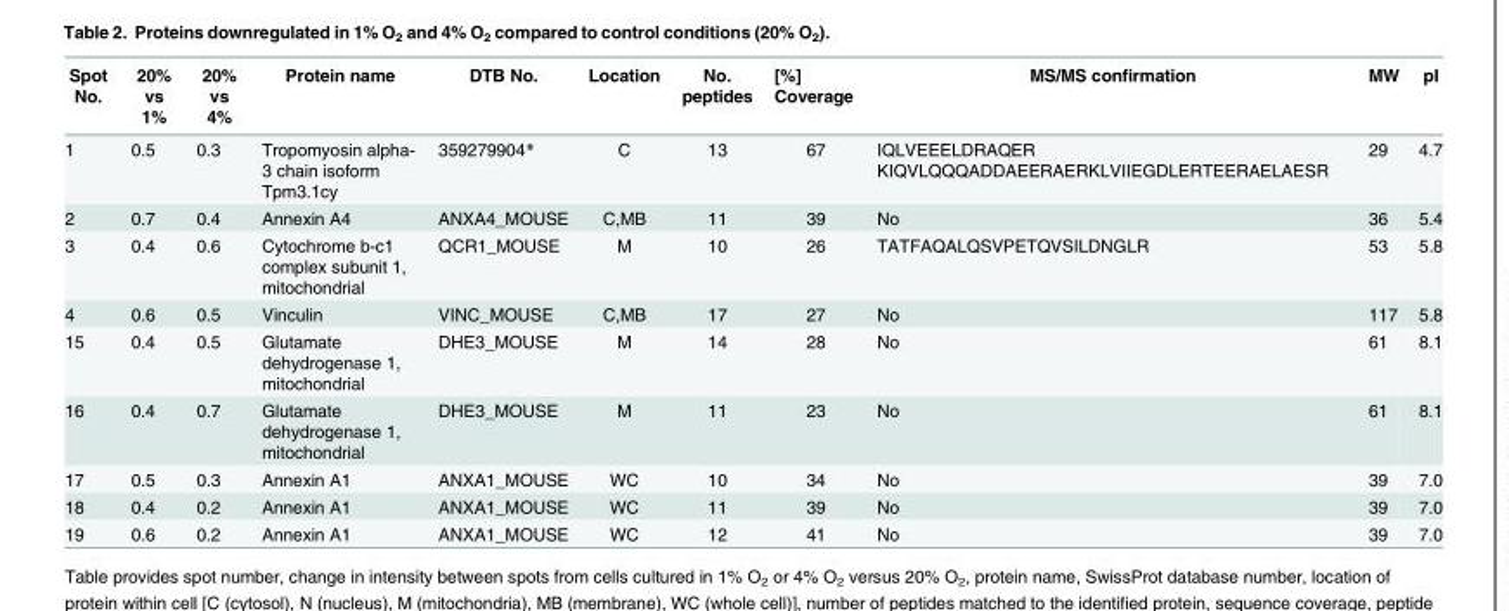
<table><thead><tr><td>Spot No.</td><td>20% vs 1%</td><td>20% vs 4%</td><td>Protein name</td><td>DTB No.</td><td>Location</td><td>No. peptides</td><td>[%] Coverage</td><td>MS/MS confirmation</td><td>MW</td><td>pI</td></tr></thead><tbody><tr><td>1</td><td>0.5</td><td>0.3</td><td>Tropomyosin alpha- 3 chain isoform Tpm3.1cy</td><td>359279904*</td><td>C</td><td>13</td><td>67</td><td>IQLVEEELDRAQER KIQVLQQQADDAEERAERKLVIIEGDLERTEERAELAESR</td><td>29</td><td>4.7</td></tr><tr><td>2</td><td>0.7</td><td>0.4</td><td>Annexin A4</td><td>ANXA4_MOUSE</td><td>C,MB</td><td>11</td><td>39</td><td>No</td><td>36</td><td>5.4</td></tr><tr><td>3</td><td>0.4</td><td>0.6</td><td>Cytochrome b-c1 complex subunit 1, mitochondrial</td><td>QCR1_MOUSE</td><td>M</td><td>10</td><td>26</td><td>TATFAQALQSVPETQVSILDNGLR</td><td>53</td><td>5.8</td></tr><tr><td>4</td><td>0.6</td><td>0.5</td><td>Vinculin</td><td>VINC_MOUSE</td><td>C,MB</td><td>17</td><td>27</td><td>No</td><td>117</td><td>5.8</td></tr><tr><td>15</td><td>0.4</td><td>0.5</td><td>Glutamate dehydrogenase 1, mitochondrial</td><td>DHE3_MOUSE</td><td>M</td><td>14</td><td>28</td><td>No</td><td>61</td><td>8.1</td></tr><tr><td>16</td><td>0.4</td><td>0.7</td><td>Glutamate dehydrogenase 1, mitochondrial</td><td>DHE3_MOUSE</td><td>M</td><td>11</td><td>23</td><td>No</td><td>61</td><td>8.1</td></tr><tr><td>17</td><td>0.5</td><td>0.3</td><td>Annexin A1</td><td>ANXA1_MOUSE</td><td>WC</td><td>10</td><td>34</td><td>No</td><td>39</td><td>7.0</td></tr><tr><td>18</td><td>0.4</td><td>0.2</td><td>Annexin A1</td><td>ANXA1_MOUSE</td><td>WC</td><td>11</td><td>39</td><td>No</td><td>39</td><td>7.0</td></tr><tr><td>19</td><td>0.6</td><td>0.2</td><td>Annexin A1</td><td>ANXA1_MOUSE</td><td>WC</td><td>12</td><td>41</td><td>No</td><td>39</td><td>7.0</td></tr></tbody></table>